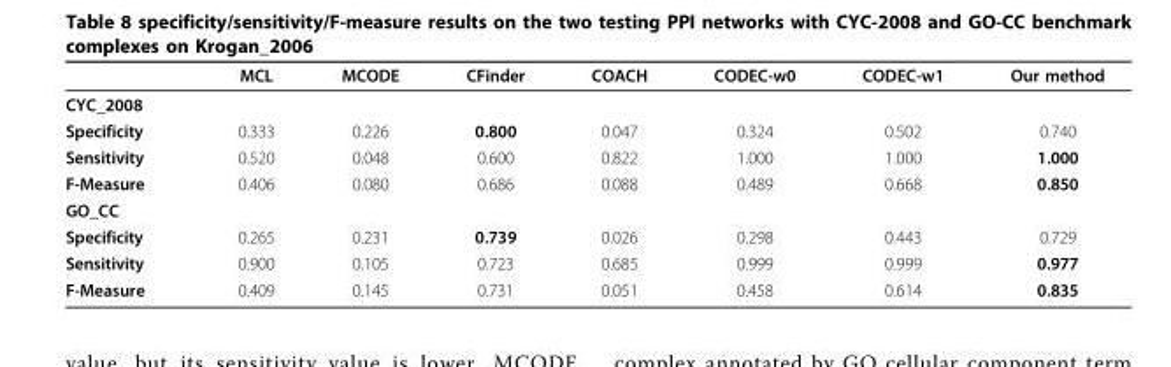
<table><thead><tr><td></td><td>MCL</td><td>MCODE</td><td>CFinder</td><td>COACH</td><td>CODEC-w0</td><td>CODEC-w1</td><td>Our method</td></tr></thead><tbody><tr><td colspan="8">CYC_2008</td></tr><tr><td>Specificity</td><td>0.333</td><td>0.226</td><td>0.800</td><td>0.047</td><td>0.324</td><td>0.502</td><td>0.740</td></tr><tr><td>Sensitivity</td><td>0.520</td><td>0.048</td><td>0.600</td><td>0.822</td><td>1.000</td><td>1.000</td><td>1.000</td></tr><tr><td>F-Measure</td><td>0.406</td><td>0.080</td><td>0.686</td><td>0.088</td><td>0.489</td><td>0.668</td><td>0.850</td></tr><tr><td colspan="8">GO_CC</td></tr><tr><td>Specificity</td><td>0.265</td><td>0.231</td><td>0.739</td><td>0.026</td><td>0.298</td><td>0.443</td><td>0.729</td></tr><tr><td>Sensitivity</td><td>0.900</td><td>0.105</td><td>0.723</td><td>0.685</td><td>0.999</td><td>0.999</td><td>0.977</td></tr><tr><td>F-Measure</td><td>0.409</td><td>0.145</td><td>0.731</td><td>0.051</td><td>0.458</td><td>0.614</td><td>0.835</td></tr></tbody></table>